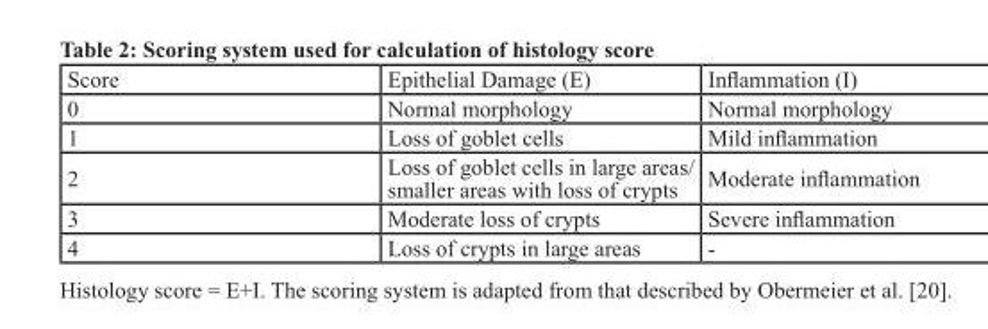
<table><tbody><tr><td>Score</td><td>Epithelial Damage (E)</td><td>Inflammation (I)</td></tr><tr><td>0</td><td>Normal morphology</td><td>Normal morphology</td></tr><tr><td>1</td><td>Loss of goblet cells</td><td>Mild inflammation</td></tr><tr><td>2</td><td>Loss of goblet cells in large areas/ smaller areas with loss of crypts</td><td>Moderate inflammation</td></tr><tr><td>3</td><td>Moderate loss of crypts</td><td>Severe inflammation</td></tr><tr><td>4</td><td>Loss of crypts in large areas</td><td>-</td></tr></tbody></table>